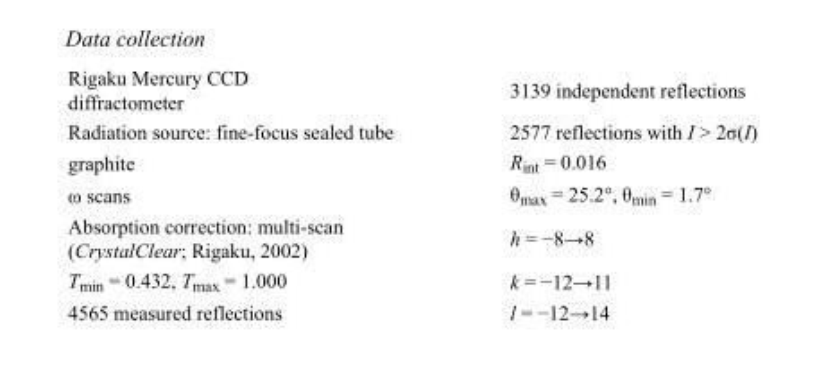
<table><tbody><tr><td>Rigaku Mercury CCD diffractometer</td><td>3139 independent reflections</td></tr><tr><td>Radiation source: fine-focus sealed tube</td><td>2577 reflections with I &gt; 2σ(I)</td></tr><tr><td>graphite</td><td>R<sub>int</sub> = 0.016</td></tr><tr><td>ω scans</td><td>θ<sub>max</sub> = 25.2°, θ<sub>min</sub> = 1.7°</td></tr><tr><td>Absorption correction: multi-scan (CrystalClear; Rigaku, 2002)</td><td>h = −8→8</td></tr><tr><td>T<sub>min</sub> = 0.432, T<sub>max</sub> = 1.000</td><td>k = −12→11</td></tr><tr><td>4565 measured reflections</td><td>l = −12→14</td></tr></tbody></table>